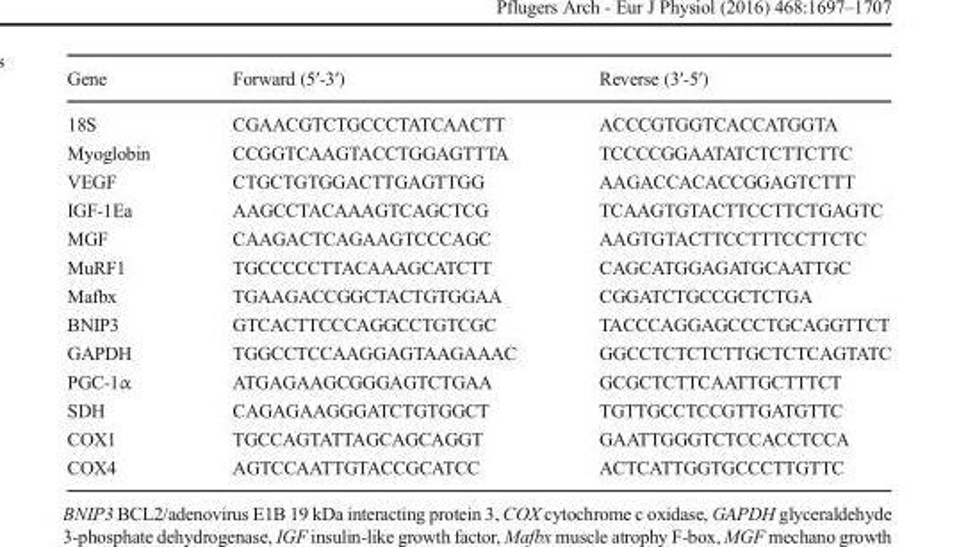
<table><thead><tr><td>Gene</td><td>Forward (5′-3′)</td><td>Reverse (3′-5′)</td></tr></thead><tbody><tr><td>18S</td><td>CGAACGTCTGCCCTATCAACTT</td><td>ACCCGTGGTCACCATGGTA</td></tr><tr><td>Myoglobin</td><td>CCGGTCAAGTACCTGGAGTTTA</td><td>TCCCCGGAATATCTCTTCTTC</td></tr><tr><td>VEGF</td><td>CTGCTGTGGACTTGAGTTGG</td><td>AAGACCACACCGGAGTCTTT</td></tr><tr><td>IGF-1Ea</td><td>AAGCCTACAAAGTCAGCTCG</td><td>TCAAGTGTACTTCCTTCTGAGTC</td></tr><tr><td>MGF</td><td>CAAGACTCAGAAGTCCCAGC</td><td>AAGTGTACTTCCTTTCCTTCTC</td></tr><tr><td>MuRF1</td><td>TGCCCCCTTACAAAGCATCTT</td><td>CAGCATGGAGATGCAATTGC</td></tr><tr><td>Mafbx</td><td>TGAAGACCGGCTACTGTGGAA</td><td>CGGATCTGCCGCTCTGA</td></tr><tr><td>BNIP3</td><td>GTCACTTCCCAGGCCTGTCGC</td><td>TACCCAGGAGCCCTGCAGGTTCT</td></tr><tr><td>GAPDH</td><td>TGGCCTCCAAGGAGTAAGAAAC</td><td>GGCCTCTCTCTTGCTCTCAGTATC</td></tr><tr><td>PGC-1α</td><td>ATGAGAAGCGGGAGTCTGAA</td><td>GCGCTCTTCAATTGCTTTCT</td></tr><tr><td>SDH</td><td>CAGAGAAGGGATCTGTGGCT</td><td>TGTTGCCTCCGTTGATGTTC</td></tr><tr><td>COX1</td><td>TGCCAGTATTAGCAGCAGGT</td><td>GAATTGGGTCTCCACCTCCA</td></tr><tr><td>COX4</td><td>AGTCCAATTGTACCGCATCC</td><td>ACTCATTGGTGCCCTTGTTC</td></tr></tbody></table>